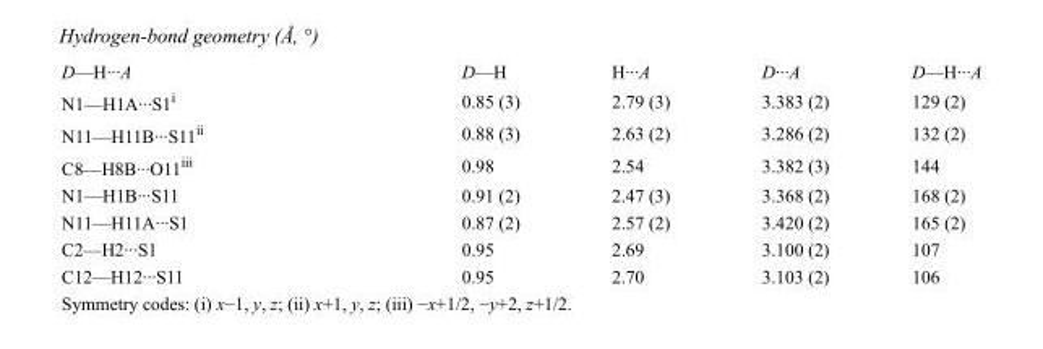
<table><tbody><tr><td>D—H···A</td><td>D—H</td><td>H···A</td><td>D···A</td><td>D—H···A</td></tr><tr><td>N1—H1A···S1<sup>i</sup></td><td>0.85 (3)</td><td>2.79 (3)</td><td>3.383 (2)</td><td>129 (2)</td></tr><tr><td>N11—H11B···S11<sup>ii</sup></td><td>0.88 (3)</td><td>2.63 (2)</td><td>3.286 (2)</td><td>132 (2)</td></tr><tr><td>C8—H8B···O11<sup>iii</sup></td><td>0.98</td><td>2.54</td><td>3.382 (3)</td><td>144</td></tr><tr><td>N1—H1B···S11</td><td>0.91 (2)</td><td>2.47 (3)</td><td>3.368 (2)</td><td>168 (2)</td></tr><tr><td>N11—H11A···S1</td><td>0.87 (2)</td><td>2.57 (2)</td><td>3.420 (2)</td><td>165 (2)</td></tr><tr><td>C2—H2···S1</td><td>0.95</td><td>2.69</td><td>3.100 (2)</td><td>107</td></tr><tr><td>C12—H12···S11</td><td>0.95</td><td>2.70</td><td>3.103 (2)</td><td>106</td></tr></tbody></table>